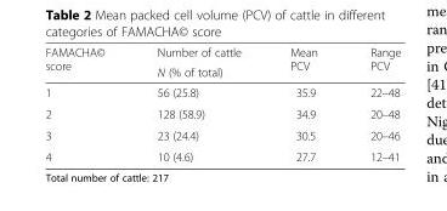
<table><thead><tr><td rowspan="2">FAMACHA© score</td><td rowspan="2">Number of cattle N (% of total)</td><td rowspan="2">Mean PCV</td><td rowspan="2">Range PCV</td></tr><tr></tr></thead><tbody><tr><td>1</td><td>56 (25.8)</td><td>35.9</td><td>22–48</td></tr><tr><td>2</td><td>128 (58.9)</td><td>34.9</td><td>20–48</td></tr><tr><td>3</td><td>23 (24.4)</td><td>30.5</td><td>20–46</td></tr><tr><td>4</td><td>10 (4.6)</td><td>27.7</td><td>12–41</td></tr></tbody></table>